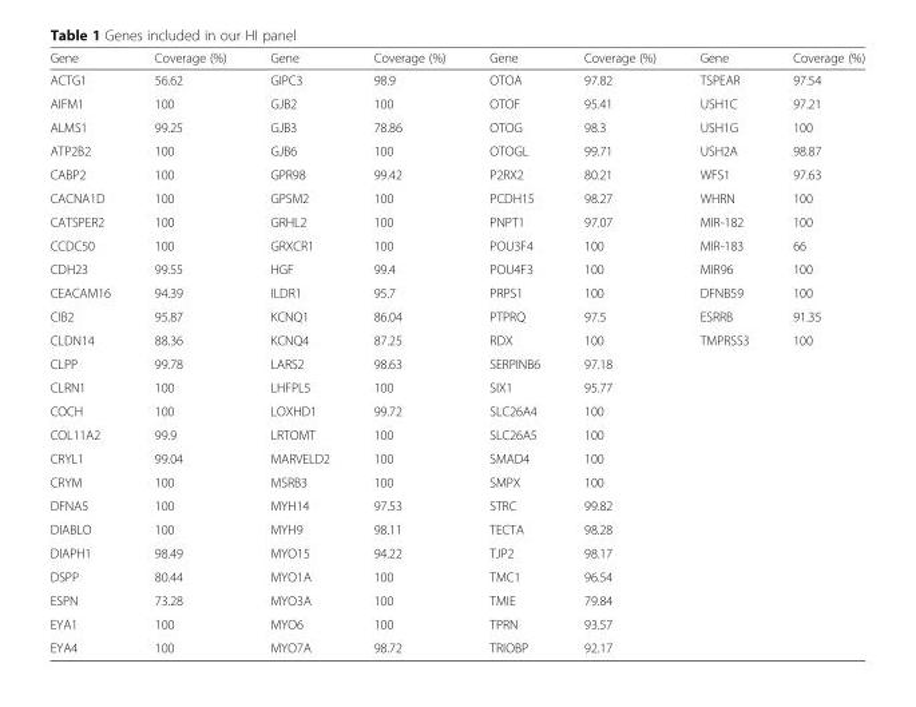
<table><thead><tr><td>Gene</td><td>Coverage (%)</td><td>Gene</td><td>Coverage (%)</td><td>Gene</td><td>Coverage (%)</td><td>Gene</td><td>Coverage (%)</td></tr></thead><tbody><tr><td>ACTG1</td><td>56.62</td><td>GIPC3</td><td>98.9</td><td>OTOA</td><td>97.82</td><td>TSPEAR</td><td>97.54</td></tr><tr><td>AIFM1</td><td>100</td><td>GJB2</td><td>100</td><td>OTOF</td><td>95.41</td><td>USH1C</td><td>97.21</td></tr><tr><td>ALMS1</td><td>99.25</td><td>GJB3</td><td>78.86</td><td>OTOG</td><td>98.3</td><td>USH1G</td><td>100</td></tr><tr><td>ATP2B2</td><td>100</td><td>GJB6</td><td>100</td><td>OTOGL</td><td>99.71</td><td>USH2A</td><td>98.87</td></tr><tr><td>CABP2</td><td>100</td><td>GPR98</td><td>99.42</td><td>P2RX2</td><td>80.21</td><td>WFS1</td><td>97.63</td></tr><tr><td>CACNA1D</td><td>100</td><td>GPSM2</td><td>100</td><td>PCDH15</td><td>98.27</td><td>WHRN</td><td>100</td></tr><tr><td>CATSPER2</td><td>100</td><td>GRHL2</td><td>100</td><td>PNPT1</td><td>97.07</td><td>MIR-182</td><td>100</td></tr><tr><td>CCDC50</td><td>100</td><td>GRXCR1</td><td>100</td><td>POU3F4</td><td>100</td><td>MIR-183</td><td>66</td></tr><tr><td>CDH23</td><td>99.55</td><td>HGF</td><td>99.4</td><td>POU4F3</td><td>100</td><td>MIR96</td><td>100</td></tr><tr><td>CEACAM16</td><td>94.39</td><td>ILDR1</td><td>95.7</td><td>PRPS1</td><td>100</td><td>DFNB59</td><td>100</td></tr><tr><td>CIB2</td><td>95.87</td><td>KCNQ1</td><td>86.04</td><td>PTPRQ</td><td>97.5</td><td>ESRRB</td><td>91.35</td></tr><tr><td>CLDN14</td><td>88.36</td><td>KCNQ4</td><td>87.25</td><td>RDX</td><td>100</td><td>TMPRSS3</td><td>100</td></tr><tr><td>CLPP</td><td>99.78</td><td>LARS2</td><td>98.63</td><td>SERPINB6</td><td>97.18</td><td></td><td></td></tr><tr><td>CLRN1</td><td>100</td><td>LHFPL5</td><td>100</td><td>SIX1</td><td>95.77</td><td></td><td></td></tr><tr><td>COCH</td><td>100</td><td>LOXHD1</td><td>99.72</td><td>SLC26A4</td><td>100</td><td></td><td></td></tr><tr><td>COL11A2</td><td>99.9</td><td>LRTOMT</td><td>100</td><td>SLC26A5</td><td>100</td><td></td><td></td></tr><tr><td>CRYL1</td><td>99.04</td><td>MARVELD2</td><td>100</td><td>SMAD4</td><td>100</td><td></td><td></td></tr><tr><td>CRYM</td><td>100</td><td>MSRB3</td><td>100</td><td>SMPX</td><td>100</td><td></td><td></td></tr><tr><td>DFNA5</td><td>100</td><td>MYH14</td><td>97.53</td><td>STRC</td><td>99.82</td><td></td><td></td></tr><tr><td>DIABLO</td><td>100</td><td>MYH9</td><td>98.11</td><td>TECTA</td><td>98.28</td><td></td><td></td></tr><tr><td>DIAPH1</td><td>98.49</td><td>MYO15</td><td>94.22</td><td>TJP2</td><td>98.17</td><td></td><td></td></tr><tr><td>DSPP</td><td>80.44</td><td>MYO1A</td><td>100</td><td>TMC1</td><td>96.54</td><td></td><td></td></tr><tr><td>ESPN</td><td>73.28</td><td>MYO3A</td><td>100</td><td>TMIE</td><td>79.84</td><td></td><td></td></tr><tr><td>EYA1</td><td>100</td><td>MYO6</td><td>100</td><td>TPRN</td><td>93.57</td><td></td><td></td></tr><tr><td>EYA4</td><td>100</td><td>MYO7A</td><td>98.72</td><td>TRIOBP</td><td>92.17</td><td></td><td></td></tr></tbody></table>